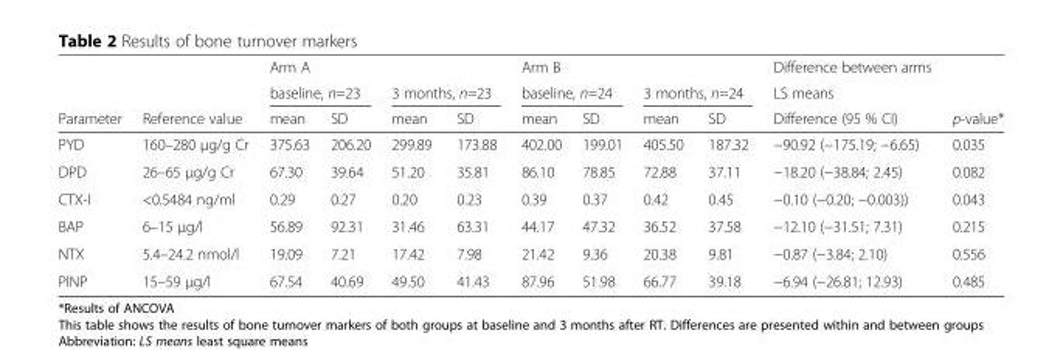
<table><thead><tr><td rowspan="3">Parameter</td><td rowspan="3">Reference value</td><td>Arm A</td><td></td><td></td><td></td><td>Arm B</td><td></td><td></td><td></td><td rowspan="3">Difference between arms LS means Difference (95 % CI)</td><td rowspan="3">p-value*</td></tr><tr><td colspan="2">baseline, n=23</td><td colspan="2">3 months, n=23</td><td colspan="2">baseline, n=24</td><td colspan="2">3 months, n=24</td></tr><tr><td>mean</td><td>SD</td><td>mean</td><td>SD</td><td>mean</td><td>SD</td><td>mean</td><td>SD</td></tr></thead><tbody><tr><td>PYD</td><td>160–280 μg/g Cr</td><td>375.63</td><td>206.20</td><td>299.89</td><td>173.88</td><td>402.00</td><td>199.01</td><td>405.50</td><td>187.32</td><td>−90.92 (−175.19; −6.65)</td><td>0.035</td></tr><tr><td>DPD</td><td>26–65 μg/g Cr</td><td>67.30</td><td>39.64</td><td>51.20</td><td>35.81</td><td>86.10</td><td>78.85</td><td>72.88</td><td>37.11</td><td>−18.20 (−38.84; 2.45)</td><td>0.082</td></tr><tr><td>CTX-I</td><td>&lt;0.5484 ng/ml</td><td>0.29</td><td>0.27</td><td>0.20</td><td>0.23</td><td>0.39</td><td>0.37</td><td>0.42</td><td>0.45</td><td>−0.10 (−0.20; −0.003))</td><td>0.043</td></tr><tr><td>BAP</td><td>6–15 μg/l</td><td>56.89</td><td>92.31</td><td>31.46</td><td>63.31</td><td>44.17</td><td>47.32</td><td>36.52</td><td>37.58</td><td>−12.10 (−31.51; 7.31)</td><td>0.215</td></tr><tr><td>NTX</td><td>5.4–24.2 nmol/l</td><td>19.09</td><td>7.21</td><td>17.42</td><td>7.98</td><td>21.42</td><td>9.36</td><td>20.38</td><td>9.81</td><td>−0.87 (−3.84; 2.10)</td><td>0.556</td></tr><tr><td>PINP</td><td>15–59 μg/l</td><td>67.54</td><td>40.69</td><td>49.50</td><td>41.43</td><td>87.96</td><td>51.98</td><td>66.77</td><td>39.18</td><td>−6.94 (−26.81; 12.93)</td><td>0.485</td></tr></tbody></table>